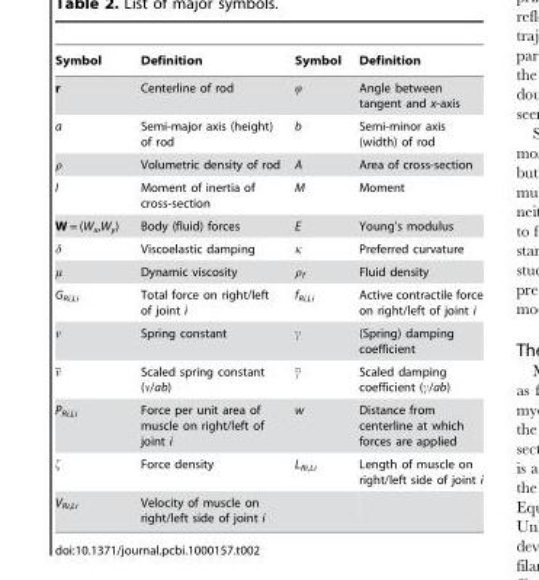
<table><thead><tr><td>Symbol</td><td>Definition</td><td>Symbol</td><td>Definition</td></tr></thead><tbody><tr><td>r</td><td>Centerline of rod</td><td>ϕ</td><td>Angle between tangent and x-axis</td></tr><tr><td>a</td><td>Semi-major axis (height) of rod</td><td>b</td><td>Semi-minor axis (width) of rod</td></tr><tr><td>ρ</td><td>Volumetric density of rod</td><td>A</td><td>Area of cross-section</td></tr><tr><td>I</td><td>Moment of inertia of cross-section</td><td>M</td><td>Moment</td></tr><tr><td>W = (W<sub>x</sub>,W<sub>y</sub>)</td><td>Body (fluid) forces</td><td>E</td><td>Young’s modulus</td></tr><tr><td>δ</td><td>Viscoelastic damping</td><td>κ</td><td>Preferred curvature</td></tr><tr><td>μ</td><td>Dynamic viscosity</td><td>ρ<sub>f</sub></td><td>Fluid density</td></tr><tr><td>G<sub>Ri,Li</sub></td><td>Total force on right/left of joint i</td><td>f<sub>Ri,Li</sub></td><td>Active contractile force on right/left of joint i</td></tr><tr><td rowspan="2">n n</td><td>Spring constant</td><td>γ</td><td>(Spring) damping coefficient</td></tr><tr><td>Scaled spring constant (ν/ab)</td><td>c</td><td>Scaled damping coefficient (γ/ab)</td></tr><tr><td>P<sub>Ri,Li</sub></td><td>Force per unit area of muscle on right/left of joint i</td><td>w</td><td>Distance from centerline at which forces are applied</td></tr><tr><td>ζ</td><td>Force density</td><td>L<sub>Ri,Li</sub></td><td>Length of muscle on right/left side of joint i</td></tr><tr><td>V<sub>Ri,Li</sub></td><td>Velocity of muscle on right/left side of joint i</td><td></td><td></td></tr></tbody></table>